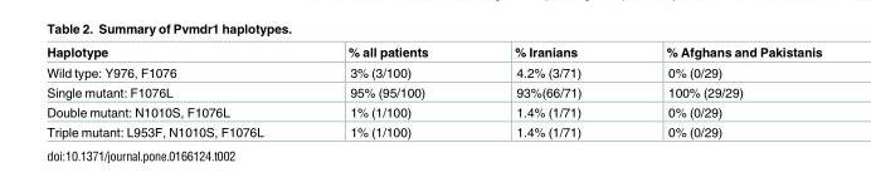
<table><thead><tr><td>Haplotype</td><td>% all patients</td><td>% Iranians</td><td>% Afghans and Pakistanis</td></tr></thead><tbody><tr><td>Wild type: Y976, F1076</td><td>3% (3/100)</td><td>4.2% (3/71)</td><td>0% (0/29)</td></tr><tr><td>Single mutant: F1076L</td><td>95% (95/100)</td><td>93%(66/71)</td><td>100% (29/29)</td></tr><tr><td>Double mutant: N1010S, F1076L</td><td>1% (1/100)</td><td>1.4% (1/71)</td><td>0% (0/29)</td></tr><tr><td>Triple mutant: L953F, N1010S, F1076L</td><td>1% (1/100)</td><td>1.4% (1/71)</td><td>0% (0/29)</td></tr></tbody></table>